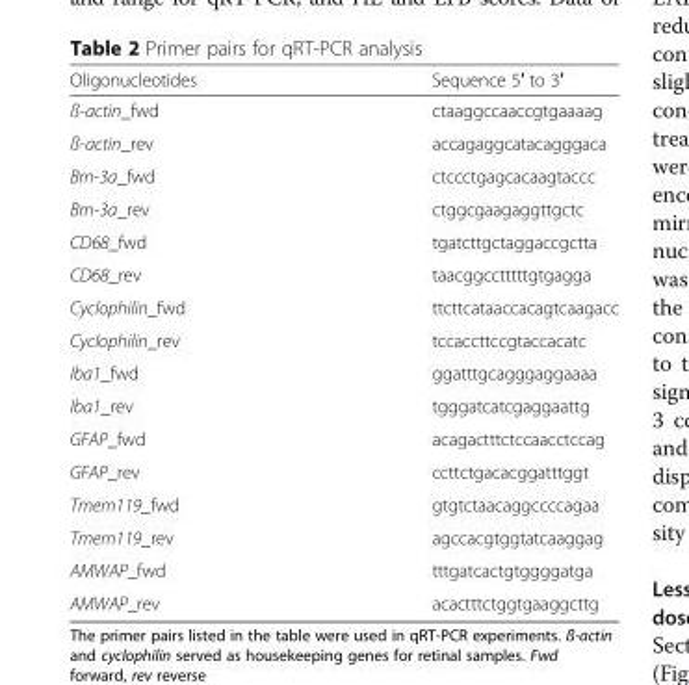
<table><thead><tr><td>Oligonucleotides</td><td>Sequence 5′ to 3′</td></tr></thead><tbody><tr><td>ß-actin_fwd</td><td>ctaaggccaaccgtgaaaag</td></tr><tr><td>ß-actin_rev</td><td>accagaggcatacagggaca</td></tr><tr><td>Brn-3a_fwd</td><td>ctccctgagcacaagtaccc</td></tr><tr><td>Brn-3a_rev</td><td>ctggcgaagaggttgctc</td></tr><tr><td>CD68_fwd</td><td>tgatcttgctaggaccgctta</td></tr><tr><td>CD68_rev</td><td>taacggcctttttgtgagga</td></tr><tr><td>Cyclophilin_fwd</td><td>ttcttcataaccacagtcaagacc</td></tr><tr><td>Cyclophilin_rev</td><td>tccaccttccgtaccacatc</td></tr><tr><td>Iba1_fwd</td><td>ggatttgcagggaggaaaa</td></tr><tr><td>Iba1_rev</td><td>tgggatcatcgaggaattg</td></tr><tr><td>GFAP_fwd</td><td>acagactttctccaacctccag</td></tr><tr><td>GFAP_rev</td><td>ccttctgacacggatttggt</td></tr><tr><td>Tmem119_fwd</td><td>gtgtctaacaggccccagaa</td></tr><tr><td>Tmem119_rev</td><td>agccacgtggtatcaaggag</td></tr><tr><td>AMWAP_fwd</td><td>tttgatcactgtggggatga</td></tr><tr><td>AMWAP_rev</td><td>acactttctggtgaaggcttg</td></tr></tbody></table>